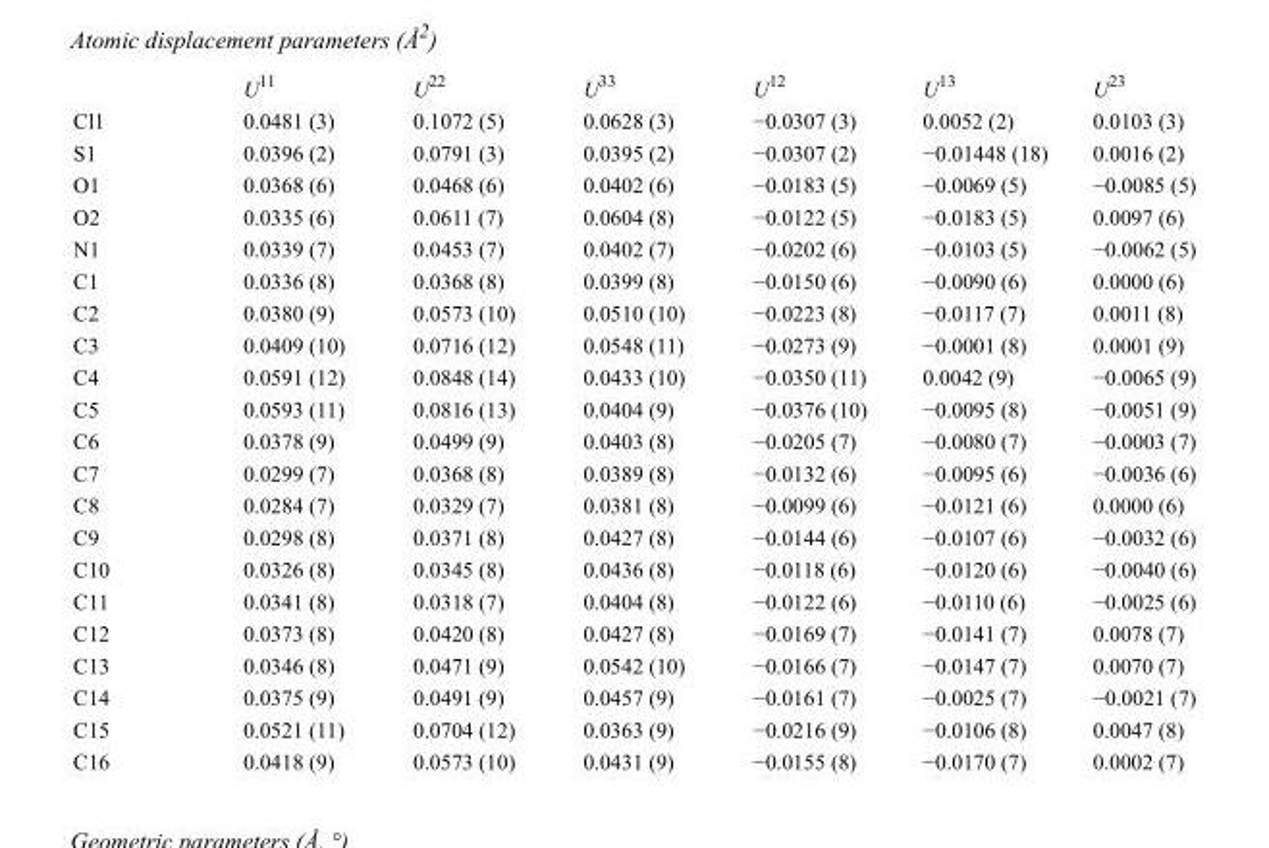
<table><thead><tr><td></td><td>U<sup>11</sup></td><td>U<sup>22</sup></td><td>U<sup>33</sup></td><td>U<sup>12</sup></td><td>U<sup>13</sup></td><td>U<sup>23</sup></td></tr></thead><tbody><tr><td>Cl1</td><td>0.0481 (3)</td><td>0.1072 (5)</td><td>0.0628 (3)</td><td>−0.0307 (3)</td><td>0.0052 (2)</td><td>0.0103 (3)</td></tr><tr><td>S1</td><td>0.0396 (2)</td><td>0.0791 (3)</td><td>0.0395 (2)</td><td>−0.0307 (2)</td><td>−0.01448 (18)</td><td>0.0016 (2)</td></tr><tr><td>O1</td><td>0.0368 (6)</td><td>0.0468 (6)</td><td>0.0402 (6)</td><td>−0.0183 (5)</td><td>−0.0069 (5)</td><td>−0.0085 (5)</td></tr><tr><td>O2</td><td>0.0335 (6)</td><td>0.0611 (7)</td><td>0.0604 (8)</td><td>−0.0122 (5)</td><td>−0.0183 (5)</td><td>0.0097 (6)</td></tr><tr><td>N1</td><td>0.0339 (7)</td><td>0.0453 (7)</td><td>0.0402 (7)</td><td>−0.0202 (6)</td><td>−0.0103 (5)</td><td>−0.0062 (5)</td></tr><tr><td>C1</td><td>0.0336 (8)</td><td>0.0368 (8)</td><td>0.0399 (8)</td><td>−0.0150 (6)</td><td>−0.0090 (6)</td><td>0.0000 (6)</td></tr><tr><td>C2</td><td>0.0380 (9)</td><td>0.0573 (10)</td><td>0.0510 (10)</td><td>−0.0223 (8)</td><td>−0.0117 (7)</td><td>0.0011 (8)</td></tr><tr><td>C3</td><td>0.0409 (10)</td><td>0.0716 (12)</td><td>0.0548 (11)</td><td>−0.0273 (9)</td><td>−0.0001 (8)</td><td>0.0001 (9)</td></tr><tr><td>C4</td><td>0.0591 (12)</td><td>0.0848 (14)</td><td>0.0433 (10)</td><td>−0.0350 (11)</td><td>0.0042 (9)</td><td>−0.0065 (9)</td></tr><tr><td>C5</td><td>0.0593 (11)</td><td>0.0816 (13)</td><td>0.0404 (9)</td><td>−0.0376 (10)</td><td>−0.0095 (8)</td><td>−0.0051 (9)</td></tr><tr><td>C6</td><td>0.0378 (9)</td><td>0.0499 (9)</td><td>0.0403 (8)</td><td>−0.0205 (7)</td><td>−0.0080 (7)</td><td>−0.0003 (7)</td></tr><tr><td>C7</td><td>0.0299 (7)</td><td>0.0368 (8)</td><td>0.0389 (8)</td><td>−0.0132 (6)</td><td>−0.0095 (6)</td><td>−0.0036 (6)</td></tr><tr><td>C8</td><td>0.0284 (7)</td><td>0.0329 (7)</td><td>0.0381 (8)</td><td>−0.0099 (6)</td><td>−0.0121 (6)</td><td>0.0000 (6)</td></tr><tr><td>C9</td><td>0.0298 (8)</td><td>0.0371 (8)</td><td>0.0427 (8)</td><td>−0.0144 (6)</td><td>−0.0107 (6)</td><td>−0.0032 (6)</td></tr><tr><td>C10</td><td>0.0326 (8)</td><td>0.0345 (8)</td><td>0.0436 (8)</td><td>−0.0118 (6)</td><td>−0.0120 (6)</td><td>−0.0040 (6)</td></tr><tr><td>C11</td><td>0.0341 (8)</td><td>0.0318 (7)</td><td>0.0404 (8)</td><td>−0.0122 (6)</td><td>−0.0110 (6)</td><td>−0.0025 (6)</td></tr><tr><td>C12</td><td>0.0373 (8)</td><td>0.0420 (8)</td><td>0.0427 (8)</td><td>−0.0169 (7)</td><td>−0.0141 (7)</td><td>0.0078 (7)</td></tr><tr><td>C13</td><td>0.0346 (8)</td><td>0.0471 (9)</td><td>0.0542 (10)</td><td>−0.0166 (7)</td><td>−0.0147 (7)</td><td>0.0070 (7)</td></tr><tr><td>C14</td><td>0.0375 (9)</td><td>0.0491 (9)</td><td>0.0457 (9)</td><td>−0.0161 (7)</td><td>−0.0025 (7)</td><td>−0.0021 (7)</td></tr><tr><td>C15</td><td>0.0521 (11)</td><td>0.0704 (12)</td><td>0.0363 (9)</td><td>−0.0216 (9)</td><td>−0.0106 (8)</td><td>0.0047 (8)</td></tr><tr><td>C16</td><td>0.0418 (9)</td><td>0.0573 (10)</td><td>0.0431 (9)</td><td>−0.0155 (8)</td><td>−0.0170 (7)</td><td>0.0002 (7)</td></tr></tbody></table>